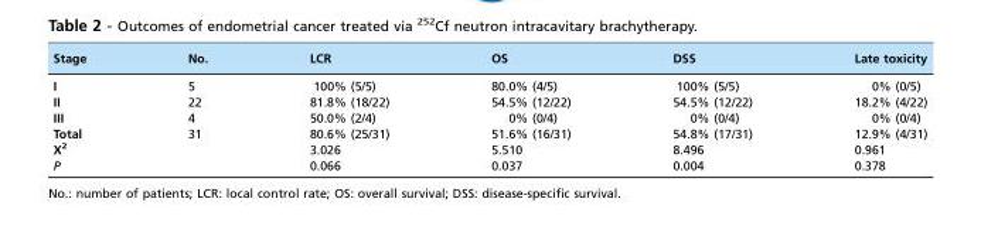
<table><thead><tr><td>Stage</td><td>No.</td><td>LCR</td><td>OS</td><td>DSS</td><td>Late toxicity</td></tr></thead><tbody><tr><td>I</td><td>5</td><td>100% (5/5)</td><td>80.0% (4/5)</td><td>100% (5/5)</td><td>0% (0/5)</td></tr><tr><td>II</td><td>22</td><td>81.8% (18/22)</td><td>54.5% (12/22)</td><td>54.5% (12/22)</td><td>18.2% (4/22)</td></tr><tr><td>III</td><td>4</td><td>50.0% (2/4)</td><td>0% (0/4)</td><td>0% (0/4)</td><td>0% (0/4)</td></tr><tr><td>Total</td><td>31</td><td>80.6% (25/31)</td><td>51.6% (16/31)</td><td>54.8% (17/31)</td><td>12.9% (4/31)</td></tr><tr><td>X<sup>2</sup></td><td></td><td>3.026</td><td>5.510</td><td>8.496</td><td>0.961</td></tr><tr><td>P</td><td></td><td>0.066</td><td>0.037</td><td>0.004</td><td>0.378</td></tr></tbody></table>